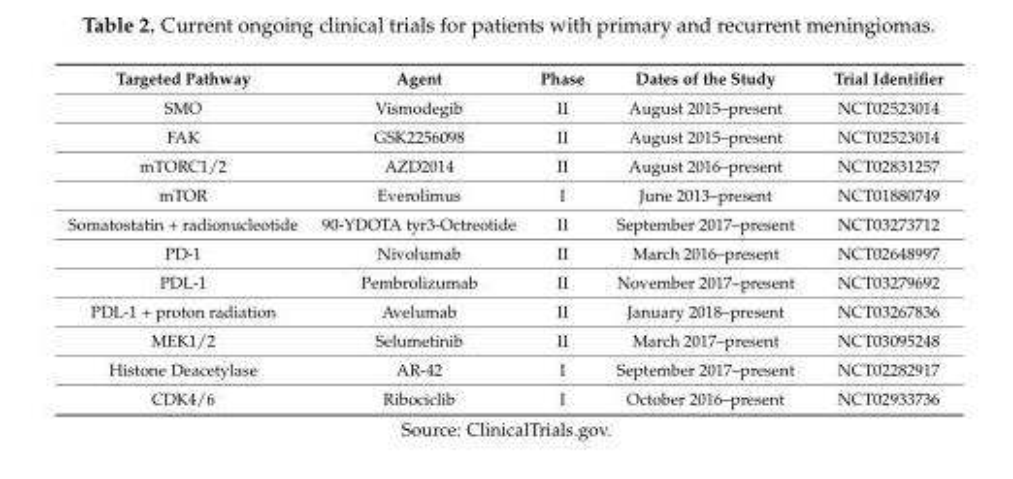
<table><thead><tr><td>Targeted Pathway</td><td>Agent</td><td>Phase</td><td>Dates of the Study</td><td>Trial Identifier</td></tr></thead><tbody><tr><td>SMO</td><td>Vismodegib</td><td>II</td><td>August 2015–present</td><td>NCT02523014</td></tr><tr><td>FAK</td><td>GSK2256098</td><td>II</td><td>August 2015–present</td><td>NCT02523014</td></tr><tr><td>mTORC1/2</td><td>AZD2014</td><td>II</td><td>August 2016–present</td><td>NCT02831257</td></tr><tr><td>mTOR</td><td>Everolimus</td><td>I</td><td>June 2013–present</td><td>NCT01880749</td></tr><tr><td>Somatostatin + radionucleotide</td><td>90-YDOTA tyr3-Octreotide</td><td>II</td><td>September 2017–present</td><td>NCT03273712</td></tr><tr><td>PD-1</td><td>Nivolumab</td><td>II</td><td>March 2016–present</td><td>NCT02648997</td></tr><tr><td>PDL-1</td><td>Pembrolizumab</td><td>II</td><td>November 2017–present</td><td>NCT03279692</td></tr><tr><td>PDL-1 + proton radiation</td><td>Avelumab</td><td>II</td><td>January 2018–present</td><td>NCT03267836</td></tr><tr><td>MEK1/2</td><td>Selumetinib</td><td>II</td><td>March 2017–present</td><td>NCT03095248</td></tr><tr><td>Histone Deacetylase</td><td>AR-42</td><td>I</td><td>September 2017–present</td><td>NCT02282917</td></tr><tr><td>CDK4/6</td><td>Ribociclib</td><td>I</td><td>October 2016–present</td><td>NCT02933736</td></tr></tbody></table>